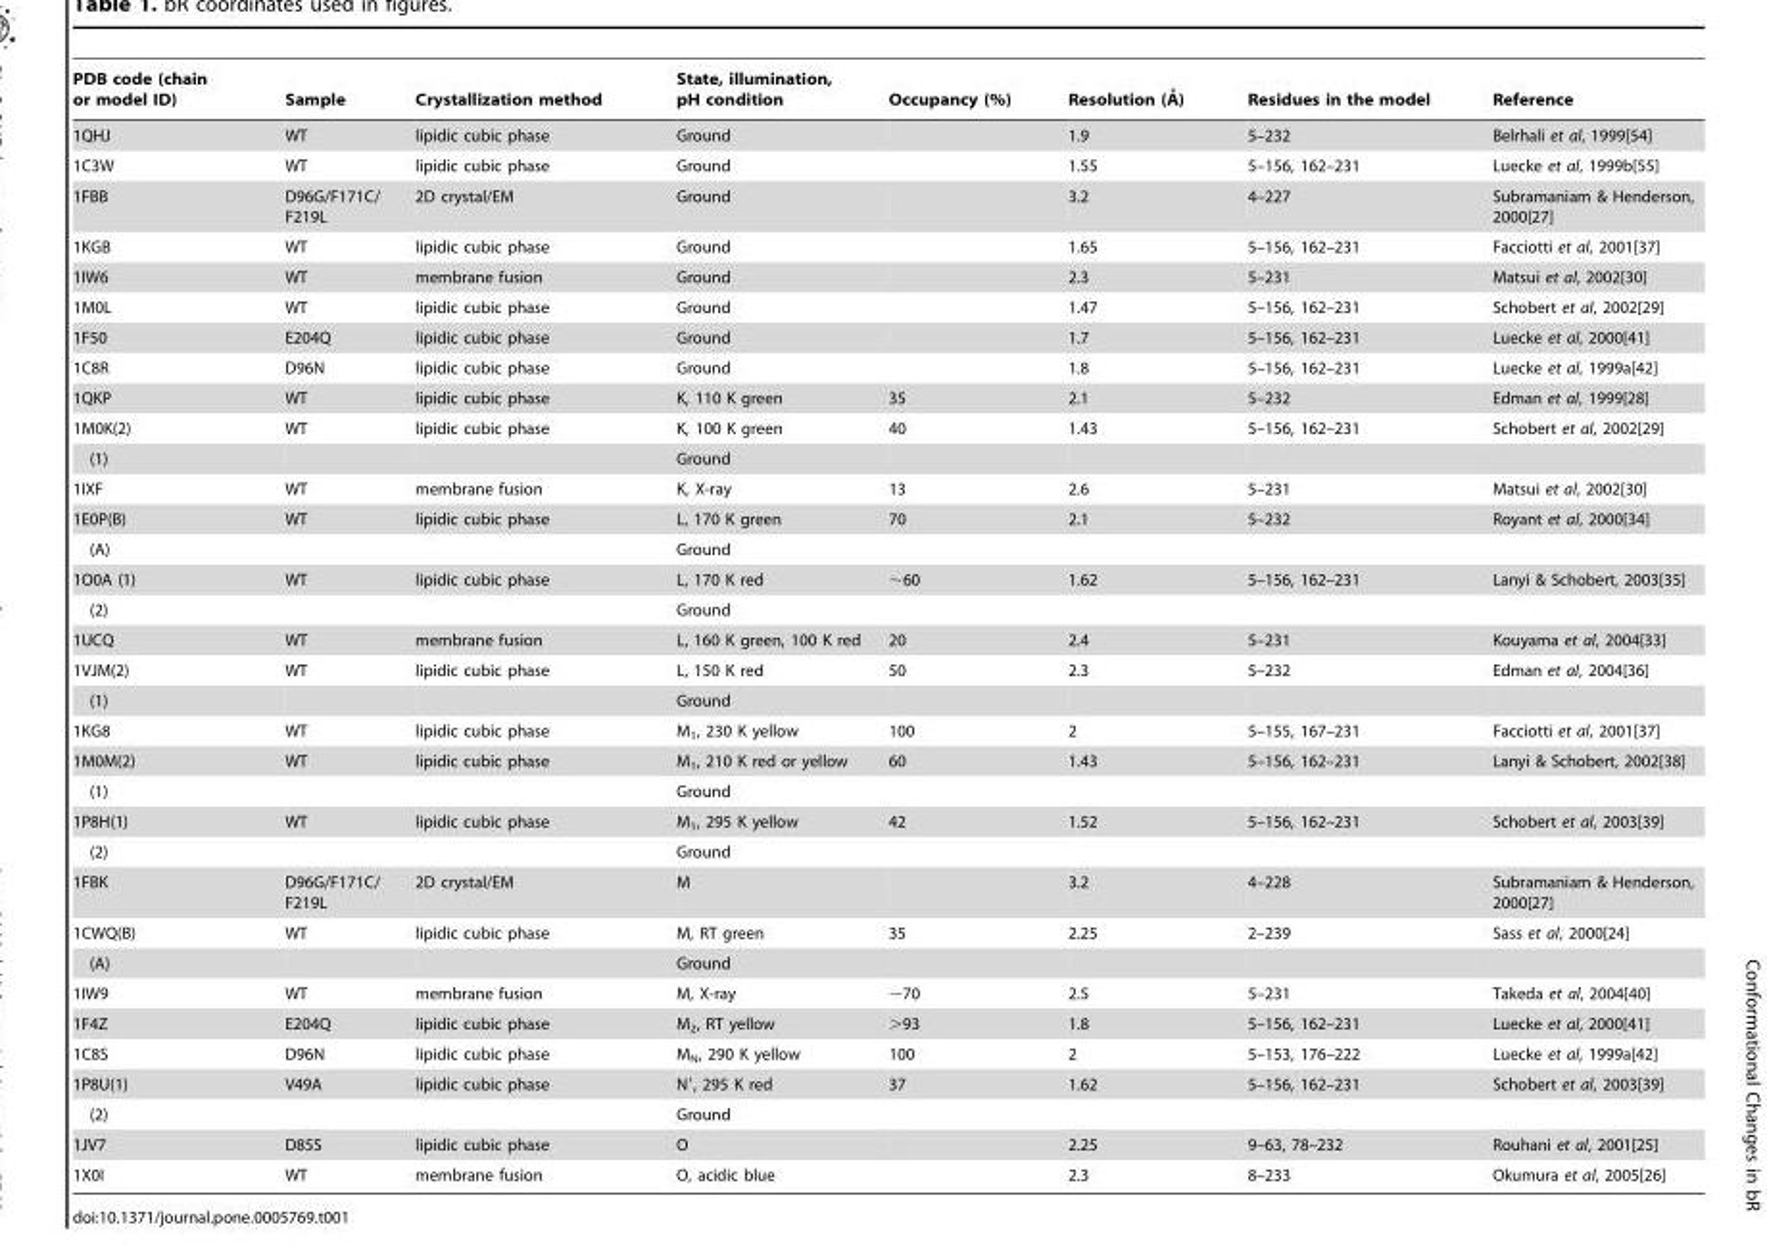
<table><thead><tr><td>PDB code (chain or model ID)</td><td>Sample</td><td>Crystallization method</td><td>State, illumination, pH condition</td><td>Occupancy (%)</td><td>Resolution (A˚ )</td><td>Residues in the model</td><td>Reference</td></tr></thead><tbody><tr><td>1QHJ</td><td>WT</td><td>lipidic cubic phase</td><td>Ground</td><td></td><td>1.9</td><td>5–232</td><td>Belrhali et al, 1999[54]</td></tr><tr><td>1C3W</td><td>WT</td><td>lipidic cubic phase</td><td>Ground</td><td></td><td>1.55</td><td>5–156, 162–231</td><td>Luecke et al, 1999b[55]</td></tr><tr><td>1FBB</td><td>D96G/F171C/ F219L</td><td>2D crystal/EM</td><td>Ground</td><td></td><td>3.2</td><td>4–227</td><td>Subramaniam &amp; Henderson, 2000[27]</td></tr><tr><td>1KGB</td><td>WT</td><td>lipidic cubic phase</td><td>Ground</td><td></td><td>1.65</td><td>5–156, 162–231</td><td>Facciotti et al, 2001[37]</td></tr><tr><td>1IW6</td><td>WT</td><td>membrane fusion</td><td>Ground</td><td></td><td>2.3</td><td>5–231</td><td>Matsui et al, 2002[30]</td></tr><tr><td>1M0L</td><td>WT</td><td>lipidic cubic phase</td><td>Ground</td><td></td><td>1.47</td><td>5–156, 162–231</td><td>Schobert et al, 2002[29]</td></tr><tr><td>1F50</td><td>E204Q</td><td>lipidic cubic phase</td><td>Ground</td><td></td><td>1.7</td><td>5–156, 162–231</td><td>Luecke et al, 2000[41]</td></tr><tr><td>1C8R</td><td>D96N</td><td>lipidic cubic phase</td><td>Ground</td><td></td><td>1.8</td><td>5–156, 162–231</td><td>Luecke et al, 1999a[42]</td></tr><tr><td>1QKP</td><td>WT</td><td>lipidic cubic phase</td><td>K, 110 K green</td><td>35</td><td>2.1</td><td>5–232</td><td>Edman et al, 1999[28]</td></tr><tr><td>1M0K(2)</td><td>WT</td><td>lipidic cubic phase</td><td>K, 100 K green</td><td>40</td><td>1.43</td><td>5–156, 162–231</td><td>Schobert et al, 2002[29]</td></tr><tr><td>(1)</td><td></td><td></td><td>Ground</td><td></td><td></td><td></td><td></td></tr><tr><td>1IXF</td><td>WT</td><td>membrane fusion</td><td>K, X-ray</td><td>13</td><td>2.6</td><td>5–231</td><td>Matsui et al, 2002[30]</td></tr><tr><td>1E0P(B)</td><td>WT</td><td>lipidic cubic phase</td><td>L, 170 K green</td><td>70</td><td>2.1</td><td>5–232</td><td>Royant et al, 2000[34]</td></tr><tr><td>(A)</td><td></td><td></td><td>Ground</td><td></td><td></td><td></td><td></td></tr><tr><td>1O0A (1)</td><td>WT</td><td>lipidic cubic phase</td><td>L, 170 K red</td><td>∼60</td><td>1.62</td><td>5–156, 162–231</td><td>Lanyi &amp; Schobert, 2003[35]</td></tr><tr><td>(2)</td><td></td><td></td><td>Ground</td><td></td><td></td><td></td><td></td></tr><tr><td>1UCQ</td><td>WT</td><td>membrane fusion</td><td>L, 160 K green, 100 K red</td><td>20</td><td>2.4</td><td>5–231</td><td>Kouyama et al, 2004[33]</td></tr><tr><td>1VJM(2)</td><td>WT</td><td>lipidic cubic phase</td><td>L, 150 K red</td><td>50</td><td>2.3</td><td>5–232</td><td>Edman et al, 2004[36]</td></tr><tr><td>(1)</td><td></td><td></td><td>Ground</td><td></td><td></td><td></td><td></td></tr><tr><td>1KG8</td><td>WT</td><td>lipidic cubic phase</td><td>M<sub>1</sub>, 230 K yellow</td><td>100</td><td>2</td><td>5–155, 167–231</td><td>Facciotti et al, 2001[37]</td></tr><tr><td>1M0M(2)</td><td>WT</td><td>lipidic cubic phase</td><td>M<sub>1</sub>, 210 K red or yellow</td><td>60</td><td>1.43</td><td>5–156, 162–231</td><td>Lanyi &amp; Schobert, 2002[38]</td></tr><tr><td>(1)</td><td></td><td></td><td>Ground</td><td></td><td></td><td></td><td></td></tr><tr><td>1P8H(1)</td><td>WT</td><td>lipidic cubic phase</td><td>M<sub>1</sub>, 295 K yellow</td><td>42</td><td>1.52</td><td>5–156, 162–231</td><td>Schobert et al, 2003[39]</td></tr><tr><td>(2)</td><td></td><td></td><td>Ground</td><td></td><td></td><td></td><td></td></tr><tr><td>1FBK</td><td>D96G/F171C/ F219L</td><td>2D crystal/EM</td><td>M</td><td></td><td>3.2</td><td>4–228</td><td>Subramaniam &amp; Henderson, 2000[27]</td></tr><tr><td>1CWQ(B)</td><td>WT</td><td>lipidic cubic phase</td><td>M, RT green</td><td>35</td><td>2.25</td><td>2–239</td><td>Sass et al, 2000[24]</td></tr><tr><td>(A)</td><td></td><td></td><td>Ground</td><td></td><td></td><td></td><td></td></tr><tr><td>1IW9</td><td>WT</td><td>membrane fusion</td><td>M, X-ray</td><td>∼70</td><td>2.5</td><td>5–231</td><td>Takeda et al, 2004[40]</td></tr><tr><td>1F4Z</td><td>E204Q</td><td>lipidic cubic phase</td><td>M<sub>2</sub>, RT yellow</td><td>&gt;93</td><td>1.8</td><td>5–156, 162–231</td><td>Luecke et al, 2000[41]</td></tr><tr><td>1C8S</td><td>D96N</td><td>lipidic cubic phase</td><td>M<sub>N</sub>, 290 K yellow</td><td>100</td><td>2</td><td>5–153, 176–222</td><td>Luecke et al, 1999a[42]</td></tr><tr><td>1P8U(1)</td><td>V49A</td><td>lipidic cubic phase</td><td>N′, 295 K red</td><td>37</td><td>1.62</td><td>5–156, 162–231</td><td>Schobert et al, 2003[39]</td></tr><tr><td>(2)</td><td></td><td></td><td>Ground</td><td></td><td></td><td></td><td></td></tr><tr><td>1JV7</td><td>D85S</td><td>lipidic cubic phase</td><td>O</td><td></td><td>2.25</td><td>9–63, 78–232</td><td>Rouhani et al, 2001[25]</td></tr><tr><td>1X0I</td><td>WT</td><td>membrane fusion</td><td>O, acidic blue</td><td></td><td>2.3</td><td>8–233</td><td>Okumura et al, 2005[26]</td></tr></tbody></table>